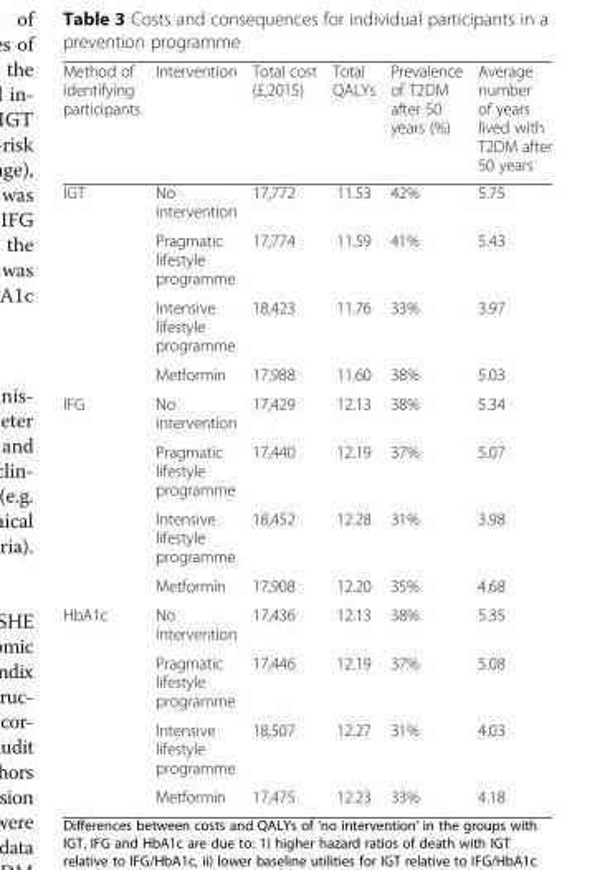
<table><thead><tr><td>Method of identifying participants</td><td>Intervention</td><td>Total cost (£,2015)</td><td>Total QALYs</td><td>Prevalence of T2DM after 50 years (%)</td><td>Average number of years lived with T2DM after 50 years</td></tr></thead><tbody><tr><td rowspan="4">IGT</td><td>No intervention</td><td>17,772</td><td>11.53</td><td>42%</td><td>5.75</td></tr><tr><td>Pragmatic lifestyle programme</td><td>17,774</td><td>11.59</td><td>41%</td><td>5.43</td></tr><tr><td>Intensive lifestyle programme</td><td>18,423</td><td>11.76</td><td>33%</td><td>3.97</td></tr><tr><td>Metformin</td><td>17,988</td><td>11.60</td><td>38%</td><td>5.03</td></tr><tr><td rowspan="4">IFG</td><td>No intervention</td><td>17,429</td><td>12.13</td><td>38%</td><td>5.34</td></tr><tr><td>Pragmatic lifestyle programme</td><td>17,440</td><td>12.19</td><td>37%</td><td>5.07</td></tr><tr><td>Intensive lifestyle programme</td><td>18,452</td><td>12.28</td><td>31%</td><td>3.98</td></tr><tr><td>Metformin</td><td>17,908</td><td>12.20</td><td>35%</td><td>4.68</td></tr><tr><td rowspan="4">HbA1c</td><td>No intervention</td><td>17,436</td><td>12.13</td><td>38%</td><td>5.35</td></tr><tr><td>Pragmatic lifestyle programme</td><td>17,446</td><td>12.19</td><td>37%</td><td>5.08</td></tr><tr><td>Intensive lifestyle programme</td><td>18,507</td><td>12.27</td><td>31%</td><td>4.03</td></tr><tr><td>Metformin</td><td>17,475</td><td>12.23</td><td>33%</td><td>4.18</td></tr></tbody></table>